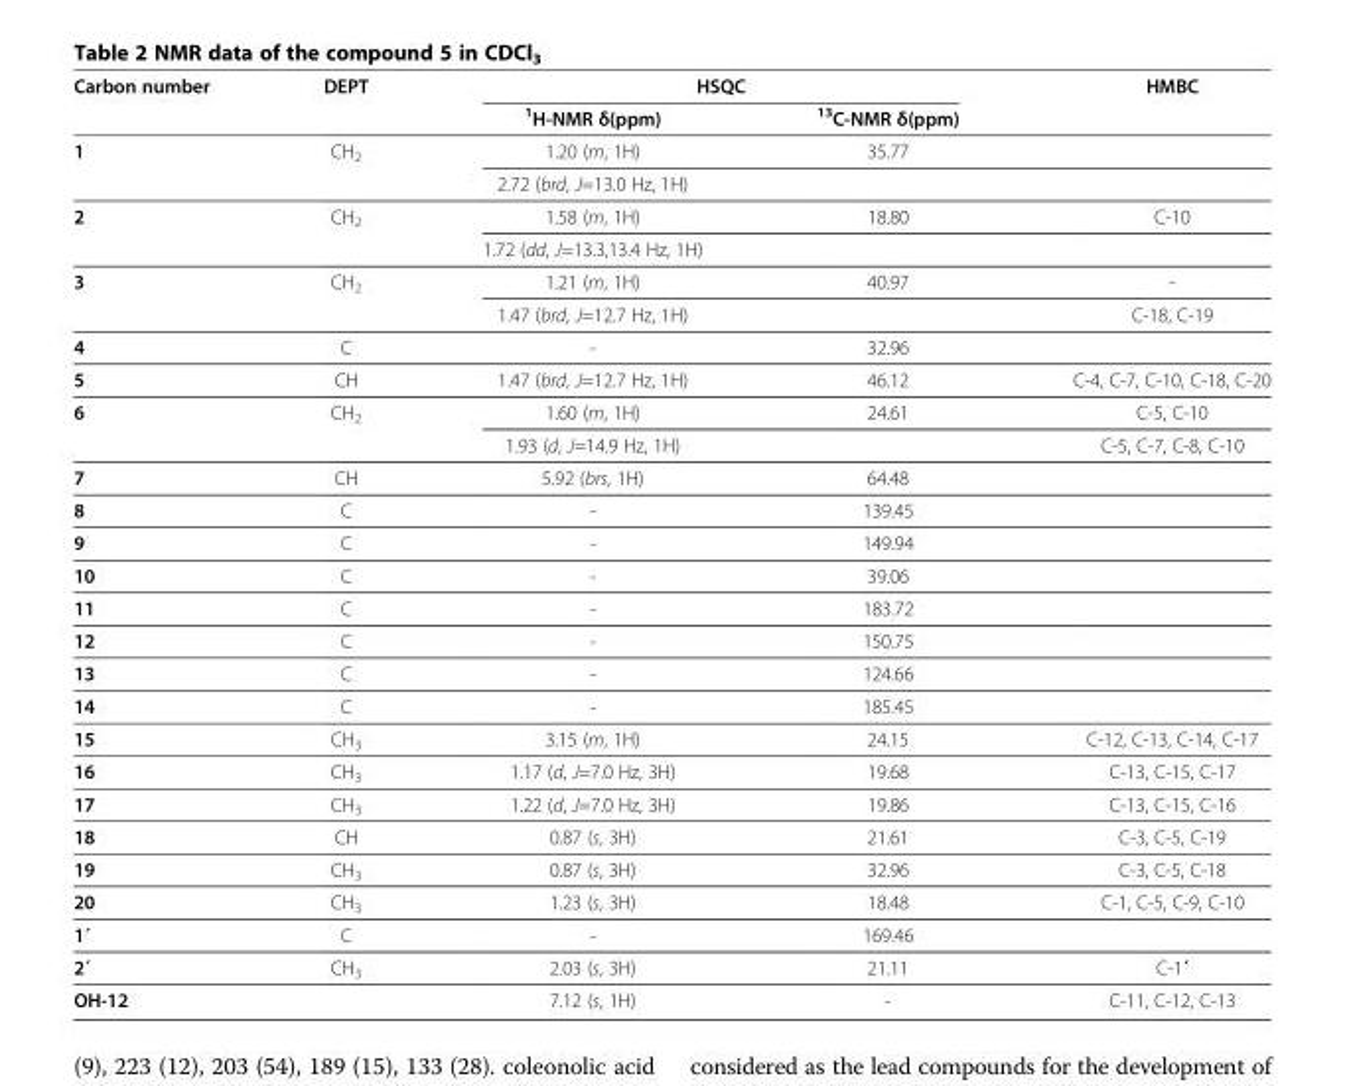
<table><thead><tr><td rowspan="2">Carbon number</td><td rowspan="2">DEPT</td><td colspan="2">HSQC</td><td rowspan="2">HMBC</td></tr><tr><td><sup>1</sup>H-NMR δ(ppm)</td><td><sup>13</sup>C-NMR δ(ppm)</td></tr></thead><tbody><tr><td rowspan="2">1</td><td>CH<sub>2</sub></td><td>1.20 (m, 1H)</td><td>35.77</td><td></td></tr><tr><td></td><td>2.72 (brd, J=13.0 Hz, 1H)</td><td></td><td></td></tr><tr><td rowspan="2">2</td><td>CH<sub>2</sub></td><td>1.58 (m, 1H)</td><td>18.80</td><td>C-10</td></tr><tr><td></td><td>1.72 (dd, J=13.3,13.4 Hz, 1H)</td><td></td><td></td></tr><tr><td rowspan="2">3</td><td>CH<sub>2</sub></td><td>1.21 (m, 1H)</td><td>40.97</td><td>-</td></tr><tr><td></td><td>1.47 (brd, J=12.7 Hz, 1H)</td><td></td><td>C-18, C-19</td></tr><tr><td>4</td><td>C</td><td>-</td><td>32.96</td><td></td></tr><tr><td>5</td><td>CH</td><td>1.47 (brd, J=12.7 Hz, 1H)</td><td>46.12</td><td>C-4, C-7, C-10, C-18, C-20</td></tr><tr><td rowspan="2">6</td><td>CH<sub>2</sub></td><td>1.60 (m, 1H)</td><td>24.61</td><td>C-5, C-10</td></tr><tr><td></td><td>1.93 (d, J=14.9 Hz, 1H)</td><td></td><td>C-5, C-7, C-8, C-10</td></tr><tr><td>7</td><td>CH</td><td>5.92 (brs, 1H)</td><td>64.48</td><td></td></tr><tr><td>8</td><td>C</td><td>-</td><td>139.45</td><td></td></tr><tr><td>9</td><td>C</td><td>-</td><td>149.94</td><td></td></tr><tr><td>10</td><td>C</td><td>-</td><td>39.06</td><td></td></tr><tr><td>11</td><td>C</td><td>-</td><td>183.72</td><td></td></tr><tr><td>12</td><td>C</td><td>-</td><td>150.75</td><td></td></tr><tr><td>13</td><td>C</td><td>-</td><td>124.66</td><td></td></tr><tr><td>14</td><td>C</td><td>-</td><td>185.45</td><td></td></tr><tr><td>15</td><td>CH<sub>3</sub></td><td>3.15 (m, 1H)</td><td>24.15</td><td>C-12, C-13, C-14, C-17</td></tr><tr><td>16</td><td>CH<sub>3</sub></td><td>1.17 (d, J=7.0 Hz, 3H)</td><td>19.68</td><td>C-13, C-15, C-17</td></tr><tr><td>17</td><td>CH<sub>3</sub></td><td>1.22 (d, J=7.0 Hz, 3H)</td><td>19.86</td><td>C-13, C-15, C-16</td></tr><tr><td>18</td><td>CH</td><td>0.87 (s, 3H)</td><td>21.61</td><td>C-3, C-5, C-19</td></tr><tr><td>19</td><td>CH<sub>3</sub></td><td>0.87 (s, 3H)</td><td>32.96</td><td>C-3, C-5, C-18</td></tr><tr><td>20</td><td>CH<sub>3</sub></td><td>1.23 (s, 3H)</td><td>18.48</td><td>C-1, C-5, C-9, C-10</td></tr><tr><td>1´</td><td>C</td><td>-</td><td>169.46</td><td></td></tr><tr><td>2´</td><td>CH<sub>3</sub></td><td>2.03 (s, 3H)</td><td>21.11</td><td>C-1´</td></tr><tr><td>OH-12</td><td></td><td>7.12 (s, 1H)</td><td>-</td><td>C-11, C-12, C-13</td></tr></tbody></table>